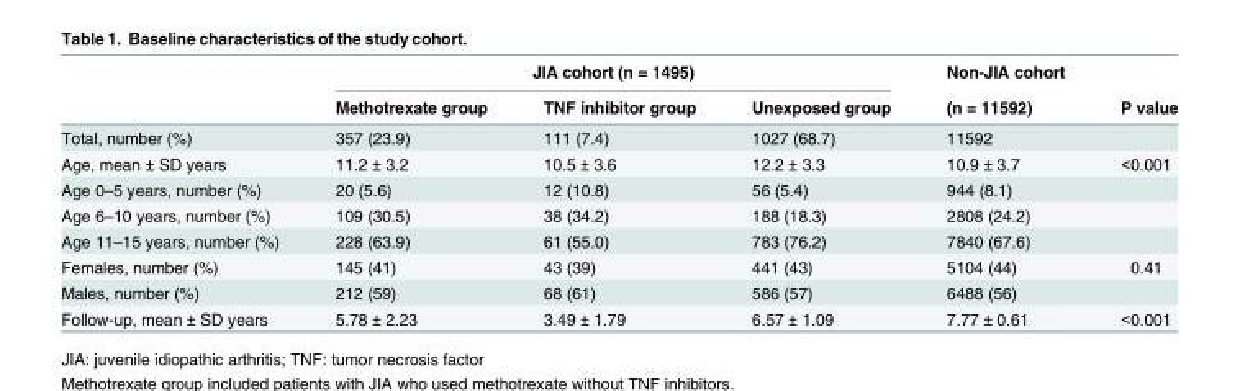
<table><thead><tr><td rowspan="2"></td><td colspan="3">JIA cohort (n = 1495)</td><td rowspan="2">Non-JIA cohort (n = 11592)</td><td rowspan="2">P value</td></tr><tr><td>Methotrexate group</td><td>TNF inhibitor group</td><td>Unexposed group</td></tr></thead><tbody><tr><td>Total, number (%)</td><td>357 (23.9)</td><td>111 (7.4)</td><td>1027 (68.7)</td><td>11592</td><td></td></tr><tr><td>Age, mean ± SD years</td><td>11.2 ± 3.2</td><td>10.5 ± 3.6</td><td>12.2 ± 3.3</td><td>10.9 ± 3.7</td><td>&lt;0.001</td></tr><tr><td>Age 0–5 years, number (%)</td><td>20 (5.6)</td><td>12 (10.8)</td><td>56 (5.4)</td><td>944 (8.1)</td><td></td></tr><tr><td>Age 6–10 years, number (%)</td><td>109 (30.5)</td><td>38 (34.2)</td><td>188 (18.3)</td><td>2808 (24.2)</td><td></td></tr><tr><td>Age 11–15 years, number (%)</td><td>228 (63.9)</td><td>61 (55.0)</td><td>783 (76.2)</td><td>7840 (67.6)</td><td></td></tr><tr><td>Females, number (%)</td><td>145 (41)</td><td>43 (39)</td><td>441 (43)</td><td>5104 (44)</td><td>0.41</td></tr><tr><td>Males, number (%)</td><td>212 (59)</td><td>68 (61)</td><td>586 (57)</td><td>6488 (56)</td><td></td></tr><tr><td>Follow-up, mean ± SD years</td><td>5.78 ± 2.23</td><td>3.49 ± 1.79</td><td>6.57 ± 1.09</td><td>7.77 ± 0.61</td><td>&lt;0.001</td></tr></tbody></table>